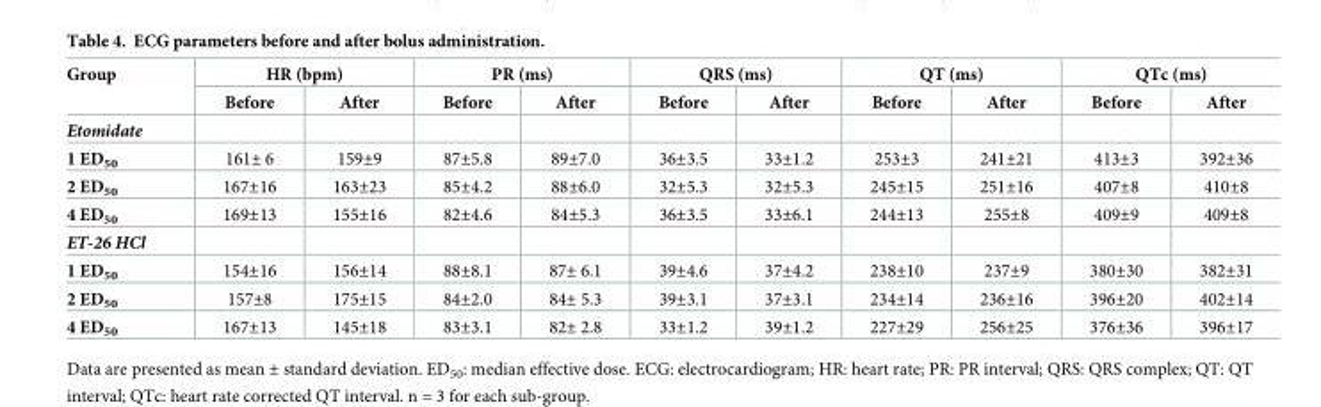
<table><thead><tr><td rowspan="2">Group</td><td colspan="2">HR (bpm)</td><td colspan="2">PR (ms)</td><td colspan="2">QRS (ms)</td><td colspan="2">QT (ms)</td><td colspan="2">QTc (ms)</td></tr><tr><td>Before</td><td>After</td><td>Before</td><td>After</td><td>Before</td><td>After</td><td>Before</td><td>After</td><td>Before</td><td>After</td></tr></thead><tbody><tr><td colspan="11">Etomidate</td></tr><tr><td>1 ED<sub>50</sub></td><td>161± 6</td><td>159±9</td><td>87±5.8</td><td>89±7.0</td><td>36±3.5</td><td>33±1.2</td><td>253±3</td><td>241±21</td><td>413±3</td><td>392±36</td></tr><tr><td>2 ED<sub>50</sub></td><td>167±16</td><td>163±23</td><td>85±4.2</td><td>88±6.0</td><td>32±5.3</td><td>32±5.3</td><td>245±15</td><td>251±16</td><td>407±8</td><td>410±8</td></tr><tr><td>4 ED<sub>50</sub></td><td>169±13</td><td>155±16</td><td>82±4.6</td><td>84±5.3</td><td>36±3.5</td><td>33±6.1</td><td>244±13</td><td>255±8</td><td>409±9</td><td>409±8</td></tr><tr><td colspan="11">ET-26 HCl</td></tr><tr><td>1 ED<sub>50</sub></td><td>154±16</td><td>156±14</td><td>88±8.1</td><td>87± 6.1</td><td>39±4.6</td><td>37±4.2</td><td>238±10</td><td>237±9</td><td>380±30</td><td>382±31</td></tr><tr><td>2 ED<sub>50</sub></td><td>157±8</td><td>175±15</td><td>84±2.0</td><td>84± 5.3</td><td>39±3.1</td><td>37±3.1</td><td>234±14</td><td>236±16</td><td>396±20</td><td>402±14</td></tr><tr><td>4 ED<sub>50</sub></td><td>167±13</td><td>145±18</td><td>83±3.1</td><td>82± 2.8</td><td>33±1.2</td><td>39±1.2</td><td>227±29</td><td>256±25</td><td>376±36</td><td>396±17</td></tr></tbody></table>